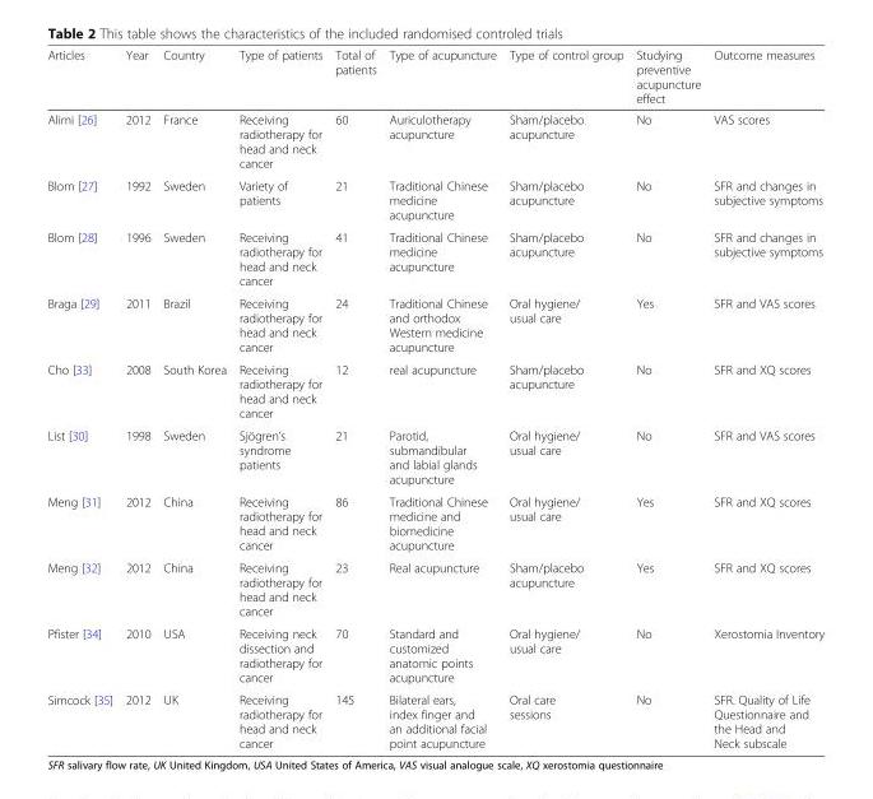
<table><thead><tr><td>Articles</td><td>Year</td><td>Country</td><td>Type of patients</td><td>Total of patients</td><td>Type of acupuncture</td><td>Type of control group</td><td>Studying preventive acupuncture effect</td><td>Outcome measures</td></tr></thead><tbody><tr><td>Alimi [26]</td><td>2012</td><td>France</td><td>Receiving radiotherapy for head and neck cancer</td><td>60</td><td>Auriculotherapy acupuncture</td><td>Sham/placebo acupuncture</td><td>No</td><td>VAS scores</td></tr><tr><td>Blom [27]</td><td>1992</td><td>Sweden</td><td>Variety of patients</td><td>21</td><td>Traditional Chinese medicine acupuncture</td><td>Sham/placebo acupuncture</td><td>No</td><td>SFR and changes in subjective symptoms</td></tr><tr><td>Blom [28]</td><td>1996</td><td>Sweden</td><td>Receiving radiotherapy for head and neck cancer</td><td>41</td><td>Traditional Chinese medicine acupuncture</td><td>Sham/placebo acupuncture</td><td>No</td><td>SFR and changes in subjective symptoms</td></tr><tr><td>Braga [29]</td><td>2011</td><td>Brazil</td><td>Receiving radiotherapy for head and neck cancer</td><td>24</td><td>Traditional Chinese and orthodox Western medicine acupuncture</td><td>Oral hygiene/ usual care</td><td>Yes</td><td>SFR and VAS scores</td></tr><tr><td>Cho [33]</td><td>2008</td><td>South Korea</td><td>Receiving radiotherapy for head and neck cancer</td><td>12</td><td>real acupuncture</td><td>Sham/placebo acupuncture</td><td>No</td><td>SFR and XQ scores</td></tr><tr><td>List [30]</td><td>1998</td><td>Sweden</td><td>Sjögren’s syndrome patients</td><td>21</td><td>Parotid, submandibular and labial glands acupuncture</td><td>Oral hygiene/ usual care</td><td>No</td><td>SFR and VAS scores</td></tr><tr><td>Meng [31]</td><td>2012</td><td>China</td><td>Receiving radiotherapy for head and neck cancer</td><td>86</td><td>Traditional Chinese medicine and biomedicine acupuncture</td><td>Oral hygiene/ usual care</td><td>Yes</td><td>SFR and XQ scores</td></tr><tr><td>Meng [32]</td><td>2012</td><td>China</td><td>Receiving radiotherapy for head and neck cancer</td><td>23</td><td>Real acupuncture</td><td>Sham/placebo acupuncture</td><td>Yes</td><td>SFR and XQ scores</td></tr><tr><td>Pfister [34]</td><td>2010</td><td>USA</td><td>Receiving neck dissection and radiotherapy for cancer</td><td>70</td><td>Standard and customized anatomic points acupuncture</td><td>Oral hygiene/ usual care</td><td>No</td><td>Xerostomia Inventory</td></tr><tr><td>Simcock [35]</td><td>2012</td><td>UK</td><td>Receiving radiotherapy for head and neck cancer</td><td>145</td><td>Bilateral ears, index finger and an additional facial point acupuncture</td><td>Oral care sessions</td><td>No</td><td>SFR. Quality of Life Questionnaire and the Head and Neck subscale</td></tr></tbody></table>